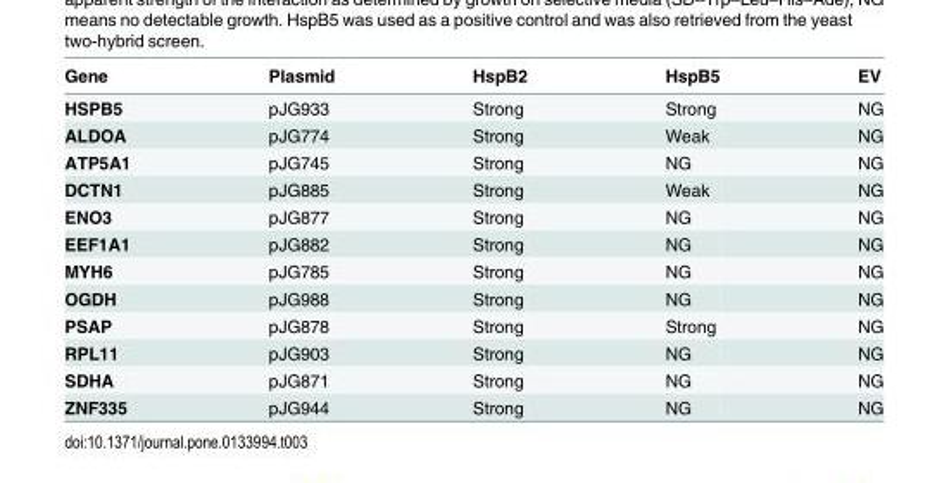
<table><thead><tr><td>Gene</td><td>Plasmid</td><td>HspB2</td><td>HspB5</td><td>EV</td></tr></thead><tbody><tr><td>HSPB5</td><td>pJG933</td><td>Strong</td><td>Strong</td><td>NG</td></tr><tr><td>ALDOA</td><td>pJG774</td><td>Strong</td><td>Weak</td><td>NG</td></tr><tr><td>ATP5A1</td><td>pJG745</td><td>Strong</td><td>NG</td><td>NG</td></tr><tr><td>DCTN1</td><td>pJG885</td><td>Strong</td><td>Weak</td><td>NG</td></tr><tr><td>ENO3</td><td>pJG877</td><td>Strong</td><td>NG</td><td>NG</td></tr><tr><td>EEF1A1</td><td>pJG882</td><td>Strong</td><td>NG</td><td>NG</td></tr><tr><td>MYH6</td><td>pJG785</td><td>Strong</td><td>NG</td><td>NG</td></tr><tr><td>OGDH</td><td>pJG988</td><td>Strong</td><td>NG</td><td>NG</td></tr><tr><td>PSAP</td><td>pJG878</td><td>Strong</td><td>Strong</td><td>NG</td></tr><tr><td>RPL11</td><td>pJG903</td><td>Strong</td><td>NG</td><td>NG</td></tr><tr><td>SDHA</td><td>pJG871</td><td>Strong</td><td>NG</td><td>NG</td></tr><tr><td>ZNF335</td><td>pJG944</td><td>Strong</td><td>NG</td><td>NG</td></tr></tbody></table>